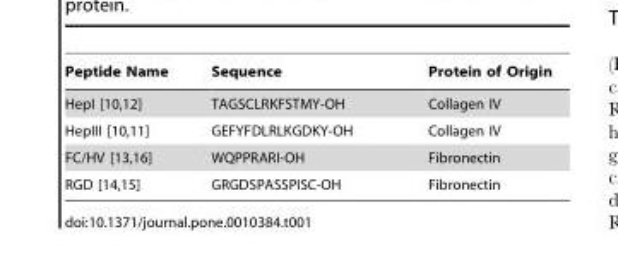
<table><thead><tr><td>Peptide Name</td><td>Sequence</td><td>Protein of Origin</td></tr></thead><tbody><tr><td>HepI [10,12]</td><td>TAGSCLRKFSTMY-OH</td><td>Collagen IV</td></tr><tr><td>HepIII [10,11]</td><td>GEFYFDLRLKGDKY-OH</td><td>Collagen IV</td></tr><tr><td>FC/HV [13,16]</td><td>WQPPRARI-OH</td><td>Fibronectin</td></tr><tr><td>RGD [14,15]</td><td>GRGDSPASSPISC-OH</td><td>Fibronectin</td></tr></tbody></table>